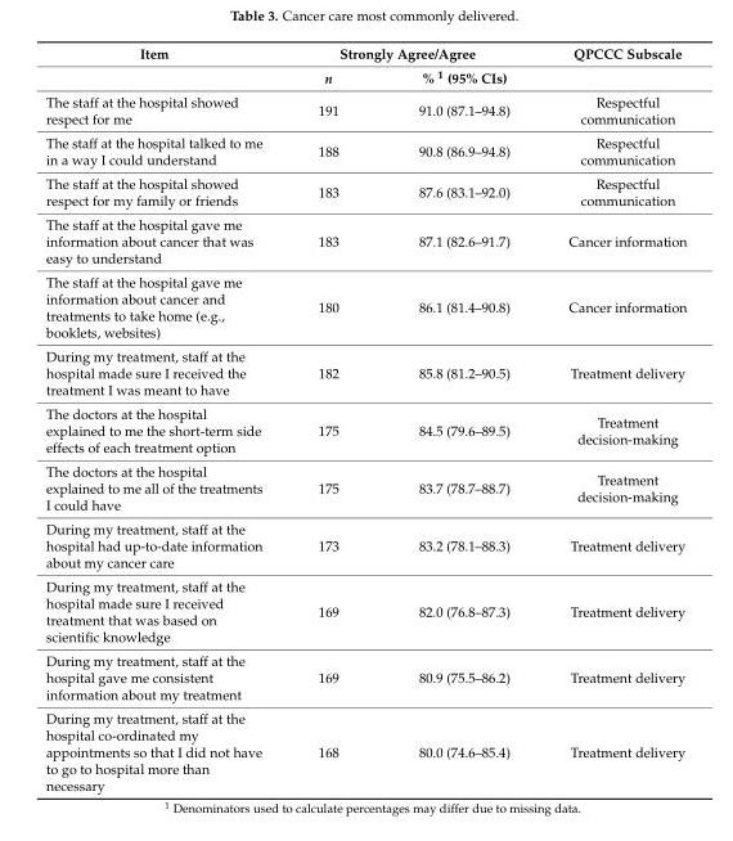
<table><thead><tr><td rowspan="2">Item</td><td colspan="2">Strongly Agree/Agree</td><td rowspan="2">QPCCC Subscale</td></tr><tr><td>n</td><td>% <sup>1</sup> (95% CIs)</td></tr></thead><tbody><tr><td>The staff at the hospital showed respect for me</td><td>191</td><td>91.0 (87.1–94.8)</td><td>Respectful communication</td></tr><tr><td>The staff at the hospital talked to me in a way I could understand</td><td>188</td><td>90.8 (86.9–94.8)</td><td>Respectful communication</td></tr><tr><td>The staff at the hospital showed respect for my family or friends</td><td>183</td><td>87.6 (83.1–92.0)</td><td>Respectful communication</td></tr><tr><td>The staff at the hospital gave me information about cancer that was easy to understand</td><td>183</td><td>87.1 (82.6–91.7)</td><td>Cancer information</td></tr><tr><td>The staff at the hospital gave me information about cancer and treatments to take home (e.g., booklets, websites)</td><td>180</td><td>86.1 (81.4–90.8)</td><td>Cancer information</td></tr><tr><td>During my treatment, staff at the hospital made sure I received the treatment I was meant to have</td><td>182</td><td>85.8 (81.2–90.5)</td><td>Treatment delivery</td></tr><tr><td>The doctors at the hospital explained to me the short-term side effects of each treatment option</td><td>175</td><td>84.5 (79.6–89.5)</td><td>Treatment decision-making</td></tr><tr><td>The doctors at the hospital explained to me all of the treatments I could have</td><td>175</td><td>83.7 (78.7–88.7)</td><td>Treatment decision-making</td></tr><tr><td>During my treatment, staff at the hospital had up-to-date information about my cancer care</td><td>173</td><td>83.2 (78.1–88.3)</td><td>Treatment delivery</td></tr><tr><td>During my treatment, staff at the hospital made sure I received treatment that was based on scientific knowledge</td><td>169</td><td>82.0 (76.8–87.3)</td><td>Treatment delivery</td></tr><tr><td>During my treatment, staff at the hospital gave me consistent information about my treatment</td><td>169</td><td>80.9 (75.5–86.2)</td><td>Treatment delivery</td></tr><tr><td>During my treatment, staff at the hospital co-ordinated my appointments so that I did not have to go to hospital more than necessary</td><td>168</td><td>80.0 (74.6–85.4)</td><td>Treatment delivery</td></tr></tbody></table>